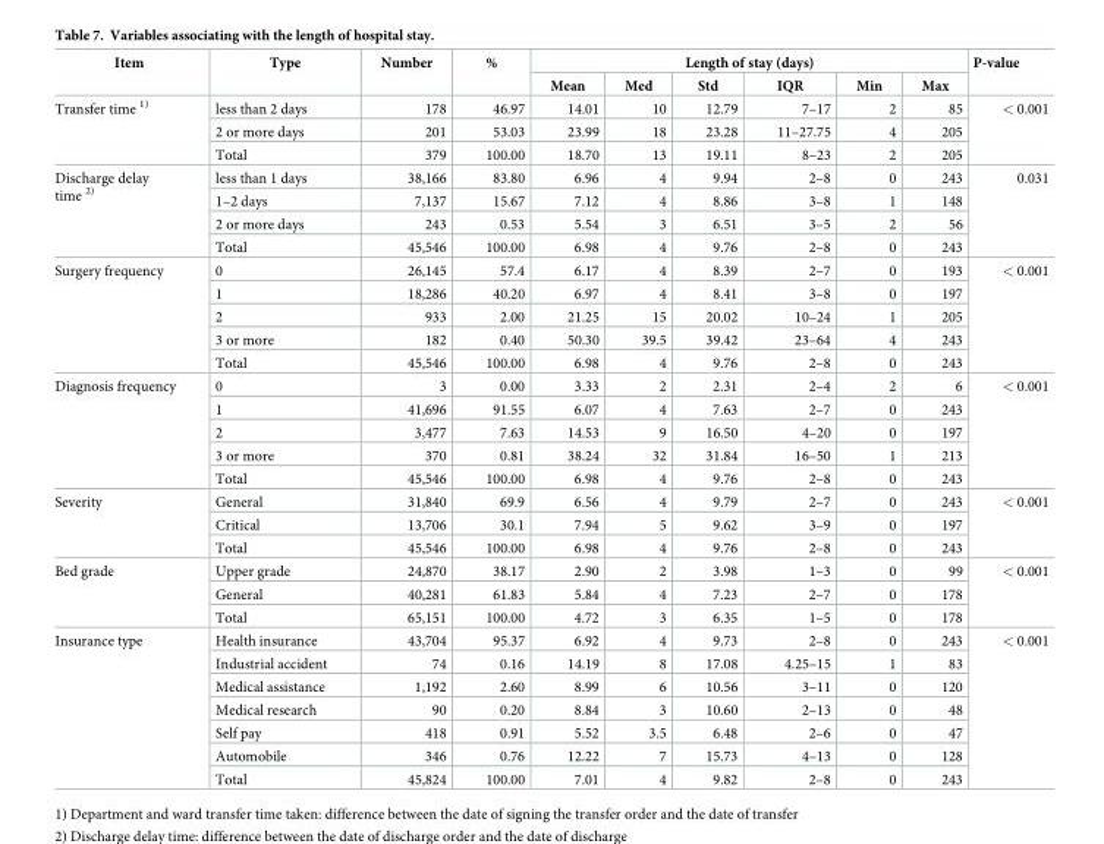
<table><thead><tr><td rowspan="2">Item</td><td rowspan="2">Type</td><td rowspan="2">Number</td><td rowspan="2">%</td><td colspan="6">Length of stay (days)</td><td rowspan="2">P-value</td></tr><tr><td>Mean</td><td>Med</td><td>Std</td><td>IQR</td><td>Min</td><td>Max</td></tr></thead><tbody><tr><td rowspan="3">Transfer time <sup>1)</sup></td><td>less than 2 days</td><td>178</td><td>46.97</td><td>14.01</td><td>10</td><td>12.79</td><td>7–17</td><td>2</td><td>85</td><td rowspan="3">&lt; 0.001</td></tr><tr><td>2 or more days</td><td>201</td><td>53.03</td><td>23.99</td><td>18</td><td>23.28</td><td>11–27.75</td><td>4</td><td>205</td></tr><tr><td>Total</td><td>379</td><td>100.00</td><td>18.70</td><td>13</td><td>19.11</td><td>8–23</td><td>2</td><td>205</td></tr><tr><td rowspan="4">Discharge delay time <sup>2)</sup></td><td>less than 1 days</td><td>38,166</td><td>83.80</td><td>6.96</td><td>4</td><td>9.94</td><td>2–8</td><td>0</td><td>243</td><td rowspan="4">0.031</td></tr><tr><td>1–2 days</td><td>7,137</td><td>15.67</td><td>7.12</td><td>4</td><td>8.86</td><td>3–8</td><td>1</td><td>148</td></tr><tr><td>2 or more days</td><td>243</td><td>0.53</td><td>5.54</td><td>3</td><td>6.51</td><td>3–5</td><td>2</td><td>56</td></tr><tr><td>Total</td><td>45,546</td><td>100.00</td><td>6.98</td><td>4</td><td>9.76</td><td>2–8</td><td>0</td><td>243</td></tr><tr><td rowspan="5">Surgery frequency</td><td>0</td><td>26,145</td><td>57.4</td><td>6.17</td><td>4</td><td>8.39</td><td>2–7</td><td>0</td><td>193</td><td rowspan="5">&lt; 0.001</td></tr><tr><td>1</td><td>18,286</td><td>40.20</td><td>6.97</td><td>4</td><td>8.41</td><td>3–8</td><td>0</td><td>197</td></tr><tr><td>2</td><td>933</td><td>2.00</td><td>21.25</td><td>15</td><td>20.02</td><td>10–24</td><td>1</td><td>205</td></tr><tr><td>3 or more</td><td>182</td><td>0.40</td><td>50.30</td><td>39.5</td><td>39.42</td><td>23–64</td><td>4</td><td>243</td></tr><tr><td>Total</td><td>45,546</td><td>100.00</td><td>6.98</td><td>4</td><td>9.76</td><td>2–8</td><td>0</td><td>243</td></tr><tr><td rowspan="5">Diagnosis frequency</td><td>0</td><td>3</td><td>0.00</td><td>3.33</td><td>2</td><td>2.31</td><td>2–4</td><td>2</td><td>6</td><td rowspan="5">&lt; 0.001</td></tr><tr><td>1</td><td>41,696</td><td>91.55</td><td>6.07</td><td>4</td><td>7.63</td><td>2–7</td><td>0</td><td>243</td></tr><tr><td>2</td><td>3,477</td><td>7.63</td><td>14.53</td><td>9</td><td>16.50</td><td>4–20</td><td>0</td><td>197</td></tr><tr><td>3 or more</td><td>370</td><td>0.81</td><td>38.24</td><td>32</td><td>31.84</td><td>16–50</td><td>1</td><td>213</td></tr><tr><td>Total</td><td>45,546</td><td>100.00</td><td>6.98</td><td>4</td><td>9.76</td><td>2–8</td><td>0</td><td>243</td></tr><tr><td rowspan="3">Severity</td><td>General</td><td>31,840</td><td>69.9</td><td>6.56</td><td>4</td><td>9.79</td><td>2–7</td><td>0</td><td>243</td><td rowspan="3">&lt; 0.001</td></tr><tr><td>Critical</td><td>13,706</td><td>30.1</td><td>7.94</td><td>5</td><td>9.62</td><td>3–9</td><td>0</td><td>197</td></tr><tr><td>Total</td><td>45,546</td><td>100.00</td><td>6.98</td><td>4</td><td>9.76</td><td>2–8</td><td>0</td><td>243</td></tr><tr><td rowspan="3">Bed grade</td><td>Upper grade</td><td>24,870</td><td>38.17</td><td>2.90</td><td>2</td><td>3.98</td><td>1–3</td><td>0</td><td>99</td><td rowspan="3">&lt; 0.001</td></tr><tr><td>General</td><td>40,281</td><td>61.83</td><td>5.84</td><td>4</td><td>7.23</td><td>2–7</td><td>0</td><td>178</td></tr><tr><td>Total</td><td>65,151</td><td>100.00</td><td>4.72</td><td>3</td><td>6.35</td><td>1–5</td><td>0</td><td>178</td></tr><tr><td rowspan="7">Insurance type</td><td>Health insurance</td><td>43,704</td><td>95.37</td><td>6.92</td><td>4</td><td>9.73</td><td>2–8</td><td>0</td><td>243</td><td rowspan="7">&lt; 0.001</td></tr><tr><td>Industrial accident</td><td>74</td><td>0.16</td><td>14.19</td><td>8</td><td>17.08</td><td>4.25–15</td><td>1</td><td>83</td></tr><tr><td>Medical assistance</td><td>1,192</td><td>2.60</td><td>8.99</td><td>6</td><td>10.56</td><td>3–11</td><td>0</td><td>120</td></tr><tr><td>Medical research</td><td>90</td><td>0.20</td><td>8.84</td><td>3</td><td>10.60</td><td>2–13</td><td>0</td><td>48</td></tr><tr><td>Self pay</td><td>418</td><td>0.91</td><td>5.52</td><td>3.5</td><td>6.48</td><td>2–6</td><td>0</td><td>47</td></tr><tr><td>Automobile</td><td>346</td><td>0.76</td><td>12.22</td><td>7</td><td>15.73</td><td>4–13</td><td>0</td><td>128</td></tr><tr><td>Total</td><td>45,824</td><td>100.00</td><td>7.01</td><td>4</td><td>9.82</td><td>2–8</td><td>0</td><td>243</td></tr></tbody></table>